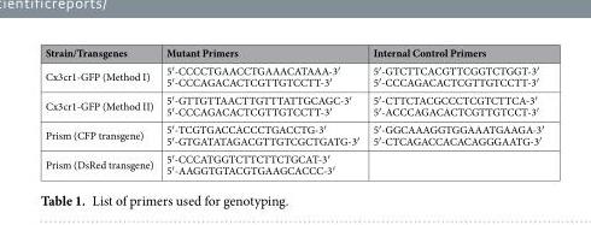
<table><thead><tr><td>Strain/Transgenes</td><td>Mutant Primers</td><td>Internal Control Primers</td></tr></thead><tbody><tr><td>Cx3cr1-GFP (Method I)</td><td>5′-CCCCTGAACCTGAAACATAAA-3′ 5′-CCCAGACACTCGTTGTCCTT-3′</td><td>5′-GTCTTCACGTTCGGTCTGGT-3′ 5′-CCCAGACACTCGTTGTCCTT-3′</td></tr><tr><td>Cx3cr1-GFP (Method II)</td><td>5′-GTTGTTAACTTGTTTATTGCAGC-3′ 5′-CCCAGACACTCGTTGTCCTT-3′</td><td>5′-CTTCTACGCCCTCGTCTTCA-3′ 5′-ACCCAGACACTCGTTGTCCT-3′</td></tr><tr><td>Prism (CFP transgene)</td><td>5′-TCGTGACCACCCTGACCTG-3′ 5′-GTGATATAGACGTTGTCGCTGATG-3′</td><td>5′-GGCAAAGGTGGAAATGAAGA-3′ 5′-CTCAGACCACACAGGGAATG-3′</td></tr><tr><td>Prism (DsRed transgene)</td><td>5′-CCCATGGTCTTCTTCTGCAT-3′ 5′-AAGGTGTACGTGAAGCACCC-3′</td><td></td></tr></tbody></table>